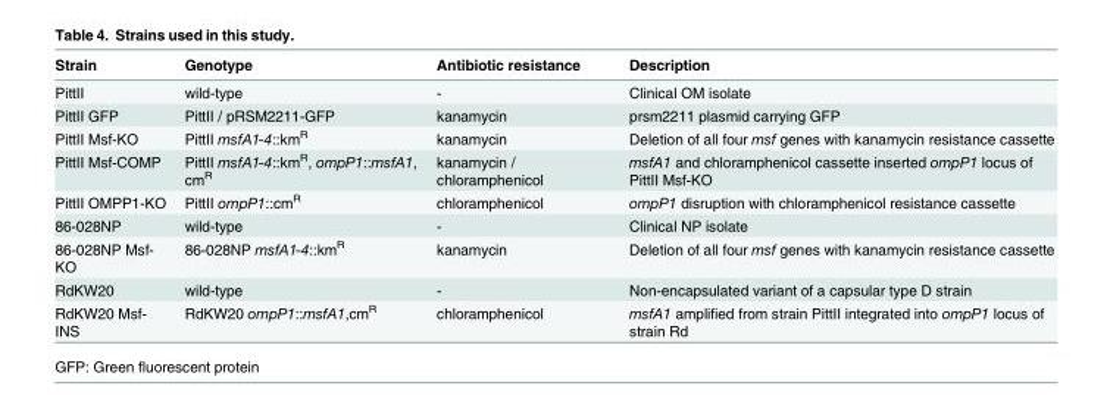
<table><thead><tr><td>Strain</td><td>Genotype</td><td>Antibiotic resistance</td><td>Description</td></tr></thead><tbody><tr><td>PittII</td><td>wild-type</td><td>-</td><td>Clinical OM isolate</td></tr><tr><td>PittII GFP</td><td>PittII / pRSM2211-GFP</td><td>kanamycin</td><td>prsm2211 plasmid carrying GFP</td></tr><tr><td>PittII Msf-KO</td><td>PittII msfA1-4::km<sup>R</sup></td><td>kanamycin</td><td>Deletion of all four msf genes with kanamycin resistance cassette</td></tr><tr><td>PittII Msf-COMP</td><td>PittII msfA1-4::km<sup>R</sup>, ompP1::msfA1, cm<sup>R</sup></td><td>kanamycin / chloramphenicol</td><td>msfA1 and chloramphenicol cassette inserted ompP1 locus of PittII Msf-KO</td></tr><tr><td>PittII OMPP1-KO</td><td>PittII ompP1::cm<sup>R</sup></td><td>chloramphenicol</td><td>ompP1 disruption with chloramphenicol resistance cassette</td></tr><tr><td>86-028NP</td><td>wild-type</td><td>-</td><td>Clinical NP isolate</td></tr><tr><td>86-028NP Msf- KO</td><td>86-028NP msfA1-4::km<sup>R</sup></td><td>kanamycin</td><td>Deletion of all four msf genes with kanamycin resistance cassette</td></tr><tr><td>RdKW20</td><td>wild-type</td><td>-</td><td>Non-encapsulated variant of a capsular type D strain</td></tr><tr><td>RdKW20 Msf- INS</td><td>RdKW20 ompP1::msfA1,cm<sup>R</sup></td><td>chloramphenicol</td><td>msfA1 amplified from strain PittII integrated into ompP1 locus of strain Rd</td></tr></tbody></table>